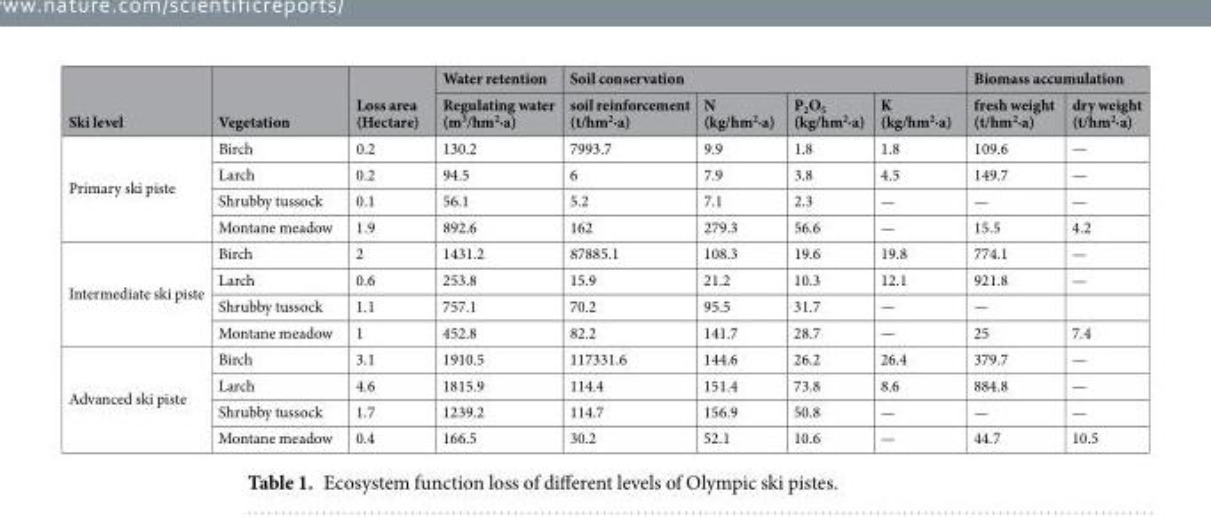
<table><thead><tr><td rowspan="2">Ski level</td><td rowspan="2">Vegetation</td><td rowspan="2">Loss area (Hectare)</td><td rowspan="2">Water retention Regulating water (m<sup>3</sup>/hm<sup>2</sup>·a)</td><td colspan="4">Soil conservation</td><td colspan="2">Biomass accumulation</td></tr><tr><td>soil reinforcement (t/hm<sup>2</sup>·a)</td><td>N (kg/hm<sup>2</sup>·a)</td><td>P<sub>2</sub>O<sub>5</sub> (kg/hm<sup>2</sup>·a)</td><td>K (kg/hm<sup>2</sup>·a)</td><td>fresh weight (t/hm<sup>2</sup>·a)</td><td>dry weight (t/hm<sup>2</sup>·a)</td></tr></thead><tbody><tr><td rowspan="4">Primary ski piste</td><td>Birch</td><td>0.2</td><td>130.2</td><td>7993.7</td><td>9.9</td><td>1.8</td><td>1.8</td><td>109.6</td><td>—</td></tr><tr><td>Larch</td><td>0.2</td><td>94.5</td><td>6</td><td>7.9</td><td>3.8</td><td>4.5</td><td>149.7</td><td>—</td></tr><tr><td>Shrubby tussock</td><td>0.1</td><td>56.1</td><td>5.2</td><td>7.1</td><td>2.3</td><td>—</td><td>—</td><td>—</td></tr><tr><td>Montane meadow</td><td>1.9</td><td>892.6</td><td>162</td><td>279.3</td><td>56.6</td><td>—</td><td>15.5</td><td>4.2</td></tr><tr><td rowspan="4">Intermediate ski piste</td><td>Birch</td><td>2</td><td>1431.2</td><td>87885.1</td><td>108.3</td><td>19.6</td><td>19.8</td><td>774.1</td><td>—</td></tr><tr><td>Larch</td><td>0.6</td><td>253.8</td><td>15.9</td><td>21.2</td><td>10.3</td><td>12.1</td><td>921.8</td><td>—</td></tr><tr><td>Shrubby tussock</td><td>1.1</td><td>757.1</td><td>70.2</td><td>95.5</td><td>31.7</td><td>—</td><td>—</td><td></td></tr><tr><td>Montane meadow</td><td>1</td><td>452.8</td><td>82.2</td><td>141.7</td><td>28.7</td><td>—</td><td>25</td><td>7.4</td></tr><tr><td rowspan="4">Advanced ski piste</td><td>Birch</td><td>3.1</td><td>1910.5</td><td>117331.6</td><td>144.6</td><td>26.2</td><td>26.4</td><td>379.7</td><td>—</td></tr><tr><td>Larch</td><td>4.6</td><td>1815.9</td><td>114.4</td><td>151.4</td><td>73.8</td><td>8.6</td><td>884.8</td><td>—</td></tr><tr><td>Shrubby tussock</td><td>1.7</td><td>1239.2</td><td>114.7</td><td>156.9</td><td>50.8</td><td>—</td><td>—</td><td>—</td></tr><tr><td>Montane meadow</td><td>0.4</td><td>166.5</td><td>30.2</td><td>52.1</td><td>10.6</td><td>—</td><td>44.7</td><td>10.5</td></tr></tbody></table>